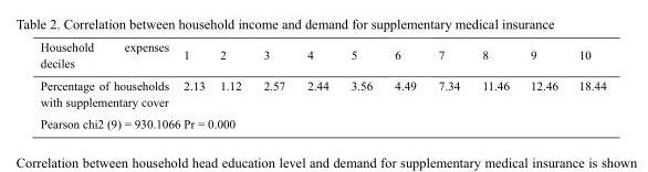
<table><thead><tr><td>Household expenses deciles</td><td>1</td><td>2</td><td>3</td><td>4</td><td>5</td><td>6</td><td>7</td><td>8</td><td>9</td><td>10</td></tr></thead><tbody><tr><td>Percentage of households with supplementary cover</td><td>2.13</td><td>1.12</td><td>2.57</td><td>2.44</td><td>3.56</td><td>4.49</td><td>7.34</td><td>11.46</td><td>12.46</td><td>18.44</td></tr><tr><td colspan="11">Pearson chi2 (9) = 930.1066 Pr = 0.000</td></tr></tbody></table>